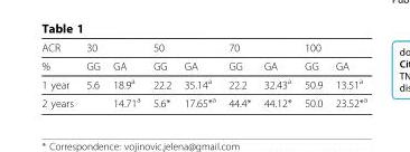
<table><thead><tr><td rowspan="2">ACR %</td><td colspan="2">30</td><td colspan="2">50</td><td colspan="2">70</td><td colspan="2">100</td></tr><tr><td>GG</td><td>GA</td><td>GG</td><td>GA</td><td>GG</td><td>GA</td><td>GG</td><td>GA</td></tr></thead><tbody><tr><td>1 year</td><td>5.6</td><td>18.9<sup>a</sup></td><td>22.2</td><td>35.14<sup>a</sup></td><td>22.2</td><td>32.43<sup>a</sup></td><td>50.9</td><td>13.51<sup>a</sup></td></tr><tr><td>2 years</td><td></td><td>14.71<sup>a</sup></td><td>5.6*</td><td>17.65*<sup>a</sup></td><td>44.4*</td><td>44.12*</td><td>50.0</td><td>23.52*<sup>a</sup></td></tr></tbody></table>